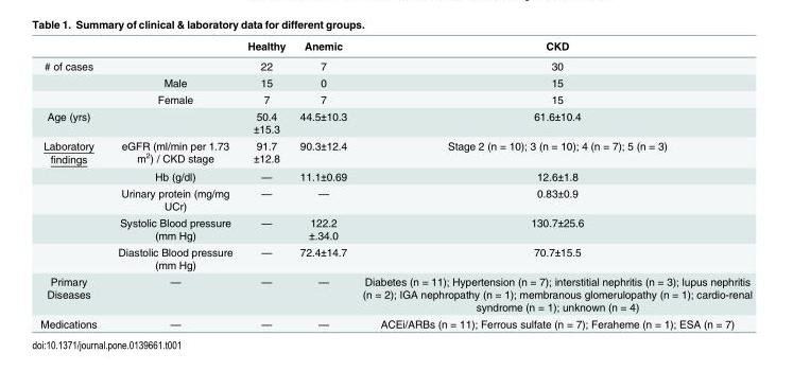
<table><thead><tr><td></td><td></td><td>Healthy</td><td>Anemic</td><td>CKD</td></tr></thead><tbody><tr><td rowspan="3"># of cases</td><td></td><td>22</td><td>7</td><td>30</td></tr><tr><td>Male</td><td>15</td><td>0</td><td>15</td></tr><tr><td>Female</td><td>7</td><td>7</td><td>15</td></tr><tr><td>Age (yrs)</td><td></td><td>50.4 ±15.3</td><td>44.5±10.3</td><td>61.6±10.4</td></tr><tr><td rowspan="5">Laboratory findings</td><td>eGFR (ml/min per 1.73 m<sup>2</sup>) / CKD stage</td><td>91.7 ±12.8</td><td>90.3±12.4</td><td>Stage 2 (n = 10); 3 (n = 10); 4 (n = 7); 5 (n = 3)</td></tr><tr><td>Hb (g/dl)</td><td>—</td><td>11.1±0.69</td><td>12.6±1.8</td></tr><tr><td>Urinary protein (mg/mg UCr)</td><td>—</td><td>—</td><td>0.83±0.9</td></tr><tr><td>Systolic Blood pressure (mm Hg)</td><td>—</td><td>122.2 ±.34.0</td><td>130.7±25.6</td></tr><tr><td>Diastolic Blood pressure (mm Hg)</td><td>—</td><td>72.4±14.7</td><td>70.7±15.5</td></tr><tr><td>Primary Diseases</td><td>—</td><td>—</td><td>—</td><td>Diabetes (n = 11); Hypertension (n = 7); interstitial nephritis (n = 3); lupus nephritis (n = 2); IGA nephropathy (n = 1); membranous glomerulopathy (n = 1); cardio-renal syndrome (n = 1); unknown (n = 4)</td></tr><tr><td>Medications</td><td>—</td><td>—</td><td>—</td><td>ACEi/ARBs (n = 11); Ferrous sulfate (n = 7); Feraheme (n = 1); ESA (n = 7)</td></tr></tbody></table>